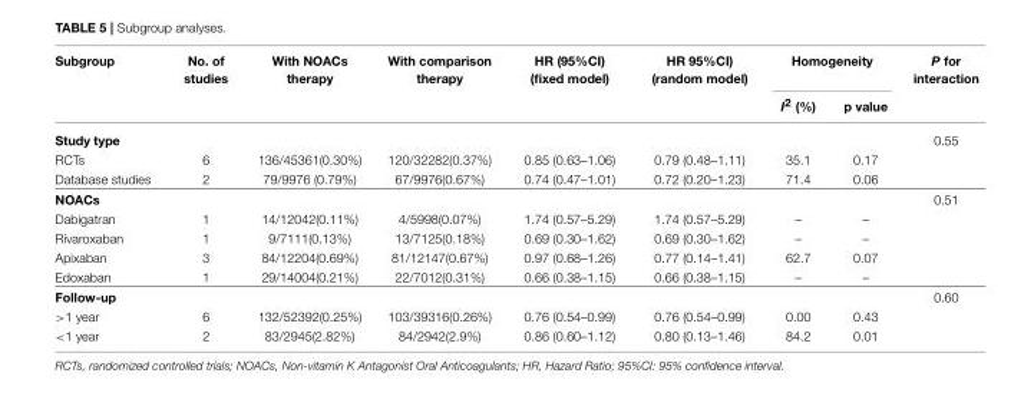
<table><thead><tr><td rowspan="2">Subgroup</td><td rowspan="2">No. of studies</td><td rowspan="2">With NOACs therapy</td><td rowspan="2">With comparison therapy</td><td rowspan="2">HR (95%CI) (fixed model)</td><td rowspan="2">HR 95%CI) (random model)</td><td colspan="2">Homogeneity</td><td rowspan="2">P for interaction</td></tr><tr><td>I<sup>2</sup> (%)</td><td>p value</td></tr></thead><tbody><tr><td>Study type</td><td></td><td></td><td></td><td></td><td></td><td></td><td></td><td>0.55</td></tr><tr><td>RCTs</td><td>6</td><td>136/45361(0.30%)</td><td>120/32282(0.37%)</td><td>0.85 (0.63–1.06)</td><td>0.79 (0.48–1.11)</td><td>35.1</td><td>0.17</td><td></td></tr><tr><td>Database studies</td><td>2</td><td>79/9976 (0.79%)</td><td>67/9976(0.67%)</td><td>0.74 (0.47–1.01)</td><td>0.72 (0.20–1.23)</td><td>71.4</td><td>0.06</td><td></td></tr><tr><td>NOACs</td><td></td><td></td><td></td><td></td><td></td><td></td><td></td><td>0.51</td></tr><tr><td>Dabigatran</td><td>1</td><td>14/12042(0.11%)</td><td>4/5998(0.07%)</td><td>1.74 (0.57–5.29)</td><td>1.74 (0.57–5.29)</td><td>–</td><td>–</td><td></td></tr><tr><td>Rivaroxaban</td><td>1</td><td>9/7111(0.13%)</td><td>13/7125(0.18%)</td><td>0.69 (0.30–1.62)</td><td>0.69 (0.30–1.62)</td><td>–</td><td>–</td><td></td></tr><tr><td>Apixaban</td><td>3</td><td>84/12204(0.69%)</td><td>81/12147(0.67%)</td><td>0.97 (0.68–1.26)</td><td>0.77 (0.14–1.41)</td><td>62.7</td><td>0.07</td><td></td></tr><tr><td>Edoxaban</td><td>1</td><td>29/14004(0.21%)</td><td>22/7012(0.31%)</td><td>0.66 (0.38–1.15)</td><td>0.66 (0.38–1.15)</td><td>–</td><td>–</td><td></td></tr><tr><td>Follow-up</td><td></td><td></td><td></td><td></td><td></td><td></td><td></td><td>0.60</td></tr><tr><td>&gt;1 year</td><td>6</td><td>132/52392(0.25%)</td><td>103/39316(0.26%)</td><td>0.76 (0.54–0.99)</td><td>0.76 (0.54–0.99)</td><td>0.00</td><td>0.43</td><td></td></tr><tr><td>&lt;1 year</td><td>2</td><td>83/2945(2.82%)</td><td>84/2942(2.9%)</td><td>0.86 (0.60–1.12)</td><td>0.80 (0.13–1.46)</td><td>84.2</td><td>0.01</td><td></td></tr></tbody></table>